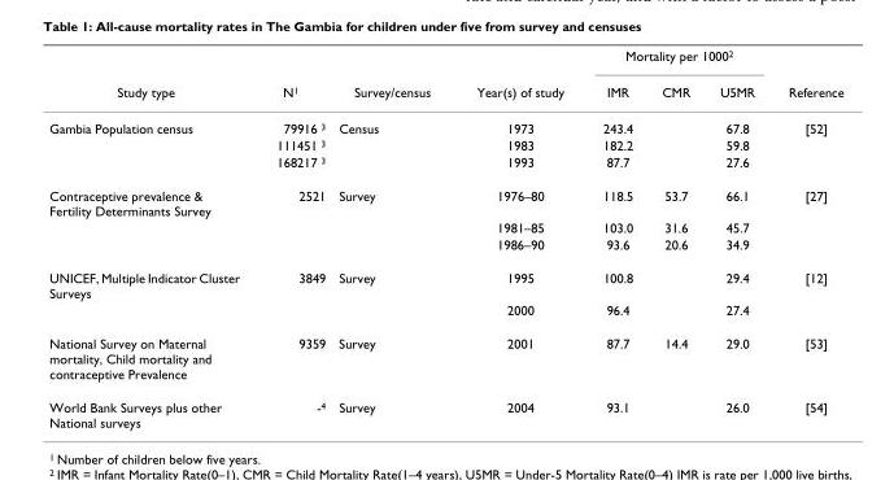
<table><thead><tr><td rowspan="2">Study type</td><td rowspan="2">N<sup>1</sup></td><td rowspan="2">Survey/census</td><td rowspan="2">Year(s) of study</td><td colspan="3">Mortality per 1000<sup>2</sup></td><td rowspan="2">Reference</td></tr><tr><td>IMR</td><td>CMR</td><td>U5MR</td></tr></thead><tbody><tr><td rowspan="3">Gambia Population census</td><td>79916 <sup>3</sup></td><td>Census</td><td>1973</td><td>243.4</td><td></td><td>67.8</td><td>[52]</td></tr><tr><td>111451 <sup>3</sup></td><td></td><td>1983</td><td>182.2</td><td></td><td>59.8</td><td></td></tr><tr><td>168217 <sup>3</sup></td><td></td><td>1993</td><td>87.7</td><td></td><td>27.6</td><td></td></tr><tr><td rowspan="3">Contraceptive prevalence &amp; Fertility Determinants Survey</td><td>2521</td><td>Survey</td><td>1976–80</td><td>118.5</td><td>53.7</td><td>66.1</td><td>[27]</td></tr><tr><td></td><td></td><td>1981–85</td><td>103.0</td><td>31.6</td><td>45.7</td><td></td></tr><tr><td></td><td></td><td>1986–90</td><td>93.6</td><td>20.6</td><td>34.9</td><td></td></tr><tr><td rowspan="2">UNICEF, Multiple Indicator Cluster Surveys</td><td>3849</td><td>Survey</td><td>1995</td><td>100.8</td><td></td><td>29.4</td><td>[12]</td></tr><tr><td></td><td></td><td>2000</td><td>96.4</td><td></td><td>27.4</td><td></td></tr><tr><td>National Survey on Maternal mortality, Child mortality and contraceptive Prevalence</td><td>9359</td><td>Survey</td><td>2001</td><td>87.7</td><td>14.4</td><td>29.0</td><td>[53]</td></tr><tr><td>World Bank Surveys plus other National surveys</td><td>-<sup>4</sup></td><td>Survey</td><td>2004</td><td>93.1</td><td></td><td>26.0</td><td>[54]</td></tr></tbody></table>